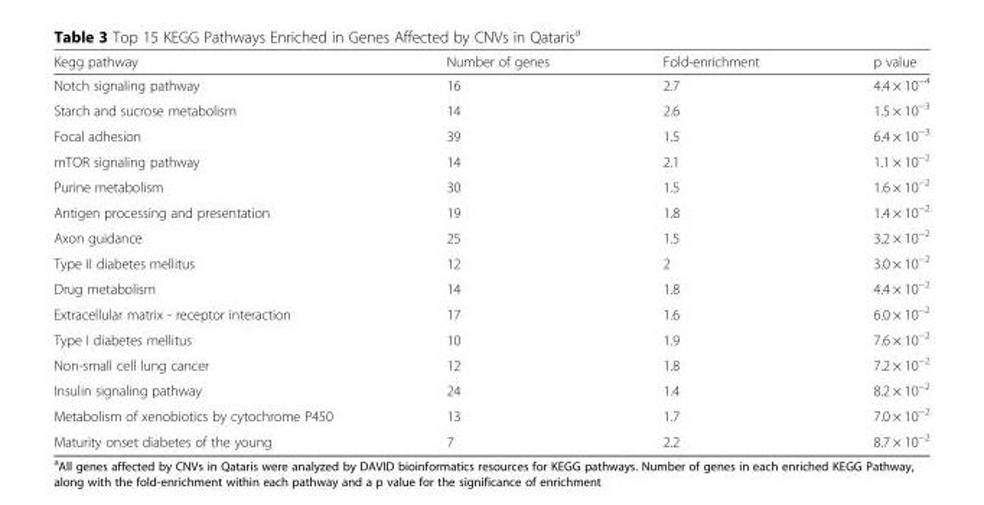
<table><thead><tr><td>Kegg pathway</td><td>Number of genes</td><td>Fold-enrichment</td><td>p value</td></tr></thead><tbody><tr><td>Notch signaling pathway</td><td>16</td><td>2.7</td><td>4.4 × 10<sup>−4</sup></td></tr><tr><td>Starch and sucrose metabolism</td><td>14</td><td>2.6</td><td>1.5 × 10<sup>−3</sup></td></tr><tr><td>Focal adhesion</td><td>39</td><td>1.5</td><td>6.4 × 10<sup>−3</sup></td></tr><tr><td>mTOR signaling pathway</td><td>14</td><td>2.1</td><td>1.1 × 10<sup>−2</sup></td></tr><tr><td>Purine metabolism</td><td>30</td><td>1.5</td><td>1.6 × 10<sup>−2</sup></td></tr><tr><td>Antigen processing and presentation</td><td>19</td><td>1.8</td><td>1.4 × 10<sup>−2</sup></td></tr><tr><td>Axon guidance</td><td>25</td><td>1.5</td><td>3.2 × 10<sup>−2</sup></td></tr><tr><td>Type II diabetes mellitus</td><td>12</td><td>2</td><td>3.0 × 10<sup>−2</sup></td></tr><tr><td>Drug metabolism</td><td>14</td><td>1.8</td><td>4.4 × 10<sup>−2</sup></td></tr><tr><td>Extracellular matrix - receptor interaction</td><td>17</td><td>1.6</td><td>6.0 × 10<sup>−2</sup></td></tr><tr><td>Type I diabetes mellitus</td><td>10</td><td>1.9</td><td>7.6 × 10<sup>−2</sup></td></tr><tr><td>Non-small cell lung cancer</td><td>12</td><td>1.8</td><td>7.2 × 10<sup>−2</sup></td></tr><tr><td>Insulin signaling pathway</td><td>24</td><td>1.4</td><td>8.2 × 10<sup>−2</sup></td></tr><tr><td>Metabolism of xenobiotics by cytochrome P450</td><td>13</td><td>1.7</td><td>7.0 × 10<sup>−2</sup></td></tr><tr><td>Maturity onset diabetes of the young</td><td>7</td><td>2.2</td><td>8.7 × 10<sup>−2</sup></td></tr></tbody></table>